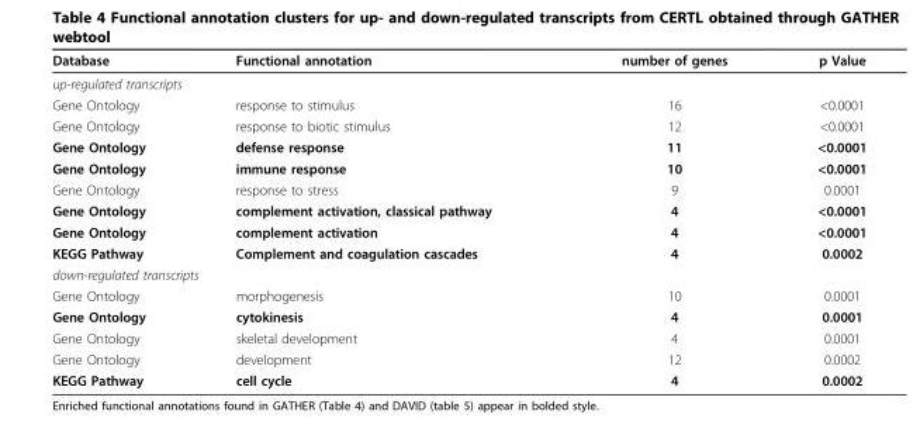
<table><thead><tr><td>Database</td><td>Functional annotation</td><td>number of genes</td><td>p Value</td></tr></thead><tbody><tr><td colspan="4">up-regulated transcripts</td></tr><tr><td>Gene Ontology</td><td>response to stimulus</td><td>16</td><td>&lt;0.0001</td></tr><tr><td>Gene Ontology</td><td>response to biotic stimulus</td><td>12</td><td>&lt;0.0001</td></tr><tr><td>Gene Ontology</td><td>defense response</td><td>11</td><td>&lt;0.0001</td></tr><tr><td>Gene Ontology</td><td>immune response</td><td>10</td><td>&lt;0.0001</td></tr><tr><td>Gene Ontology</td><td>response to stress</td><td>9</td><td>0.0001</td></tr><tr><td>Gene Ontology</td><td>complement activation, classical pathway</td><td>4</td><td>&lt;0.0001</td></tr><tr><td>Gene Ontology</td><td>complement activation</td><td>4</td><td>&lt;0.0001</td></tr><tr><td>KEGG Pathway</td><td>Complement and coagulation cascades</td><td>4</td><td>0.0002</td></tr><tr><td colspan="4">down-regulated transcripts</td></tr><tr><td>Gene Ontology</td><td>morphogenesis</td><td>10</td><td>0.0001</td></tr><tr><td>Gene Ontology</td><td>cytokinesis</td><td>4</td><td>0.0001</td></tr><tr><td>Gene Ontology</td><td>skeletal development</td><td>4</td><td>0.0001</td></tr><tr><td>Gene Ontology</td><td>development</td><td>12</td><td>0.0002</td></tr><tr><td>KEGG Pathway</td><td>cell cycle</td><td>4</td><td>0.0002</td></tr></tbody></table>